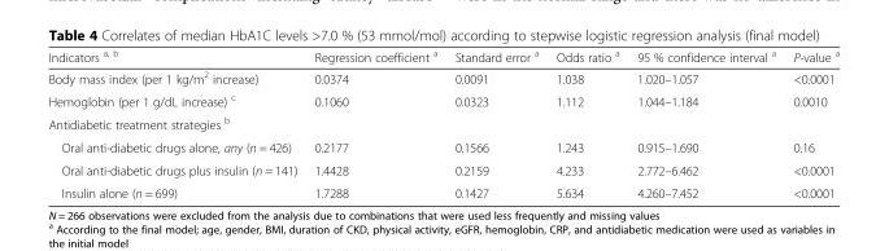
<table><thead><tr><td>Indicators <sup>a, b</sup></td><td>Regression coefficient <sup>a</sup></td><td>Standard error <sup>a</sup></td><td>Odds ratio <sup>a</sup></td><td>95 % confidence interval <sup>a</sup></td><td>P-value <sup>a</sup></td></tr></thead><tbody><tr><td>Body mass index (per 1 kg/m<sup>2</sup> increase)</td><td>0.0374</td><td>0.0091</td><td>1.038</td><td>1.020–1.057</td><td>&lt;0.0001</td></tr><tr><td>Hemoglobin (per 1 g/dL increase) <sup>c</sup></td><td>0.1060</td><td>0.0323</td><td>1.112</td><td>1.044–1.184</td><td>0.0010</td></tr><tr><td colspan="6">Antidiabetic treatment strategies <sup>b</sup></td></tr><tr><td>Oral anti-diabetic drugs alone, any (n = 426)</td><td>0.2177</td><td>0.1566</td><td>1.243</td><td>0.915–1.690</td><td>0.16</td></tr><tr><td>Oral anti-diabetic drugs plus insulin (n = 141)</td><td>1.4428</td><td>0.2159</td><td>4.233</td><td>2.772–6.462</td><td>&lt;0.0001</td></tr><tr><td>Insulin alone (n = 699)</td><td>1.7288</td><td>0.1427</td><td>5.634</td><td>4.260–7.452</td><td>&lt;0.0001</td></tr></tbody></table>